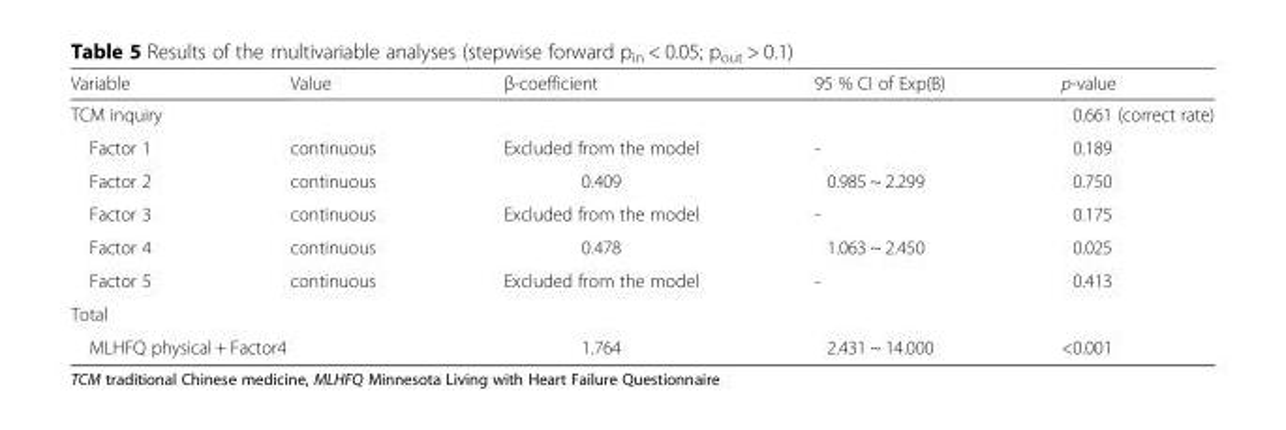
<table><thead><tr><td>Variable</td><td>Value</td><td>β-coefficient</td><td>95 % CI of Exp(B)</td><td>p-value</td></tr></thead><tbody><tr><td>TCM inquiry</td><td></td><td></td><td></td><td>0.661 (correct rate)</td></tr><tr><td>Factor 1</td><td>continuous</td><td>Excluded from the model</td><td>-</td><td>0.189</td></tr><tr><td>Factor 2</td><td>continuous</td><td>0.409</td><td>0.985 ~ 2.299</td><td>0.750</td></tr><tr><td>Factor 3</td><td>continuous</td><td>Excluded from the model</td><td>-</td><td>0.175</td></tr><tr><td>Factor 4</td><td>continuous</td><td>0.478</td><td>1.063 ~ 2.450</td><td>0.025</td></tr><tr><td>Factor 5</td><td>continuous</td><td>Excluded from the model</td><td>-</td><td>0.413</td></tr><tr><td colspan="5">Total</td></tr><tr><td colspan="2">MLHFQ physical + Factor4</td><td>1.764</td><td>2.431 ~ 14.000</td><td>&lt;0.001</td></tr></tbody></table>